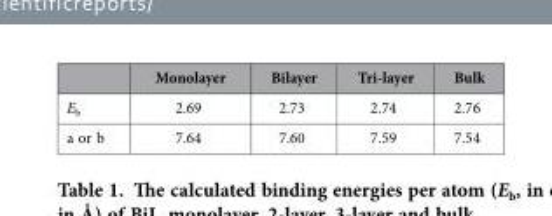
<table><thead><tr><td></td><td>Monolayer</td><td>Bilayer</td><td>Tri-layer</td><td>Bulk</td></tr></thead><tbody><tr><td>E<sub>b</sub></td><td>2.69</td><td>2.73</td><td>2.74</td><td>2.76</td></tr><tr><td>a or b</td><td>7.64</td><td>7.60</td><td>7.59</td><td>7.54</td></tr></tbody></table>